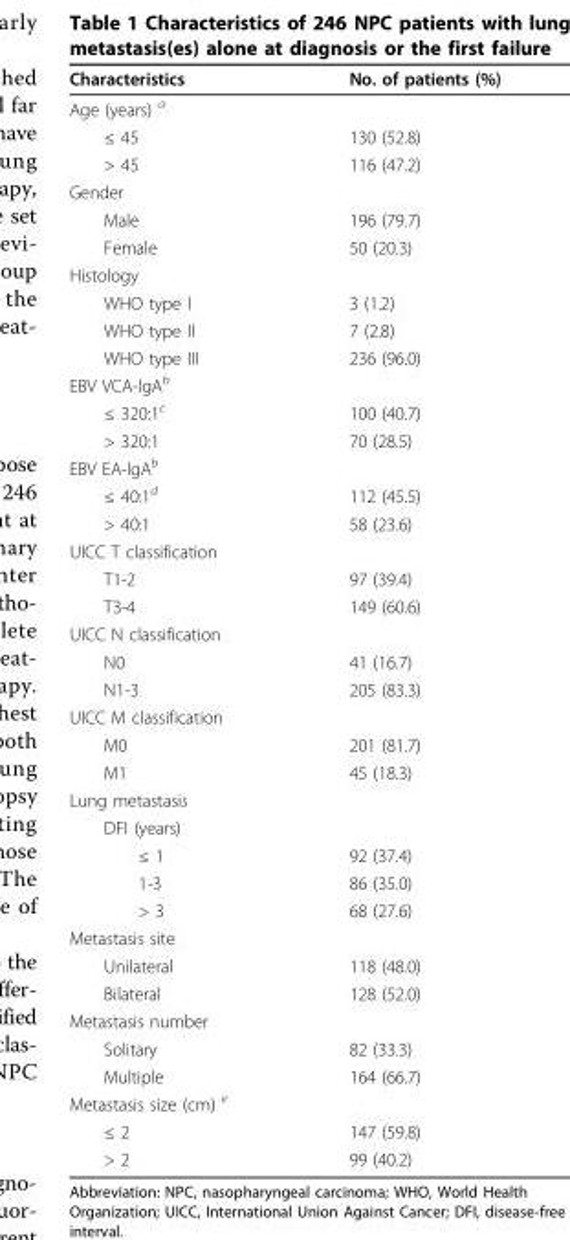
<table><thead><tr><td>Characteristics</td><td>No. of patients (%)</td></tr></thead><tbody><tr><td colspan="2">Age (years) <sup>a</sup></td></tr><tr><td>≤ 45</td><td>130 (52.8)</td></tr><tr><td>&gt; 45</td><td>116 (47.2)</td></tr><tr><td colspan="2">Gender</td></tr><tr><td>Male</td><td>196 (79.7)</td></tr><tr><td>Female</td><td>50 (20.3)</td></tr><tr><td colspan="2">Histology</td></tr><tr><td>WHO type I</td><td>3 (1.2)</td></tr><tr><td>WHO type II</td><td>7 (2.8)</td></tr><tr><td>WHO type III</td><td>236 (96.0)</td></tr><tr><td colspan="2">EBV VCA-lgA<sup>b</sup></td></tr><tr><td>≤ 320:1<sup>c</sup></td><td>100 (40.7)</td></tr><tr><td>&gt; 320:1</td><td>70 (28.5)</td></tr><tr><td colspan="2">EBV EA-lgA<sup>b</sup></td></tr><tr><td>≤ 40:1<sup>d</sup></td><td>112 (45.5)</td></tr><tr><td>&gt; 40:1</td><td>58 (23.6)</td></tr><tr><td colspan="2">UICC T classification</td></tr><tr><td>T1-2</td><td>97 (39.4)</td></tr><tr><td>T3-4</td><td>149 (60.6)</td></tr><tr><td colspan="2">UICC N classification</td></tr><tr><td>N0</td><td>41 (16.7)</td></tr><tr><td>N1-3</td><td>205 (83.3)</td></tr><tr><td colspan="2">UICC M classification</td></tr><tr><td>M0</td><td>201 (81.7)</td></tr><tr><td>M1</td><td>45 (18.3)</td></tr><tr><td colspan="2">Lung metastasis</td></tr><tr><td colspan="2">DFI (years)</td></tr><tr><td>≤ 1</td><td>92 (37.4)</td></tr><tr><td>1-3</td><td>86 (35.0)</td></tr><tr><td>&gt; 3</td><td>68 (27.6)</td></tr><tr><td colspan="2">Metastasis site</td></tr><tr><td>Unilateral</td><td>118 (48.0)</td></tr><tr><td>Bilateral</td><td>128 (52.0)</td></tr><tr><td colspan="2">Metastasis number</td></tr><tr><td>Solitary</td><td>82 (33.3)</td></tr><tr><td>Multiple</td><td>164 (66.7)</td></tr><tr><td colspan="2">Metastasis size (cm) <sup>e</sup></td></tr><tr><td>≤ 2</td><td>147 (59.8)</td></tr><tr><td>&gt; 2</td><td>99 (40.2)</td></tr></tbody></table>